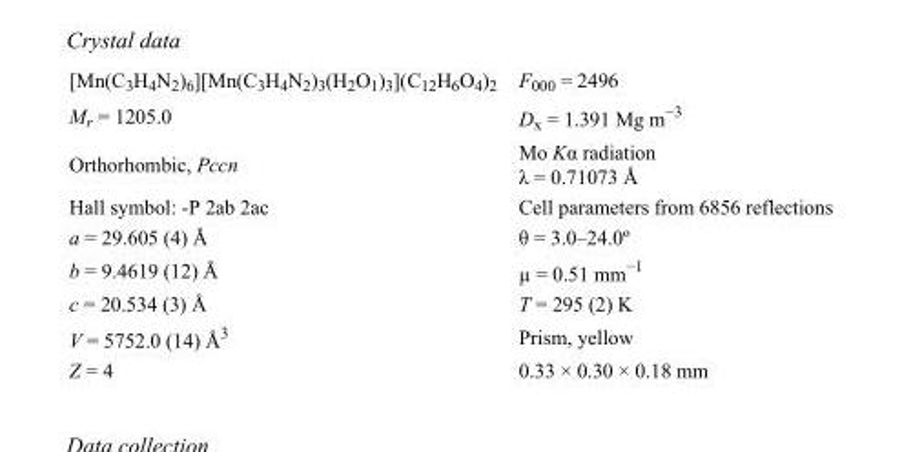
<table><tbody><tr><td>[Mn(C<sub>3</sub>H<sub>4</sub>N<sub>2</sub>)<sub>6</sub>][Mn(C<sub>3</sub>H<sub>4</sub>N<sub>2</sub>)<sub>3</sub>(H<sub>2</sub>O<sub>1</sub>)<sub>3</sub>](C<sub>12</sub>H<sub>6</sub>O<sub>4</sub>)<sub>2</sub></td><td>F<sub>000</sub> = 2496</td></tr><tr><td>M<sub>r</sub> = 1205.0</td><td>D<sub>x</sub> = 1.391 Mg m<sup>−3</sup></td></tr><tr><td>Orthorhombic, Pccn</td><td>Mo Kα radiation λ = 0.71073 Å</td></tr><tr><td>Hall symbol: -P 2ab 2ac</td><td>Cell parameters from 6856 reflections</td></tr><tr><td>a = 29.605 (4) Å</td><td>θ = 3.0–24.0º</td></tr><tr><td>b = 9.4619 (12) Å</td><td>µ = 0.51 mm<sup>−1</sup></td></tr><tr><td>c = 20.534 (3) Å</td><td>T = 295 (2) K</td></tr><tr><td>V = 5752.0 (14) Å<sup>3</sup></td><td>Prism, yellow</td></tr><tr><td>Z = 4</td><td>0.33 × 0.30 × 0.18 mm</td></tr></tbody></table>